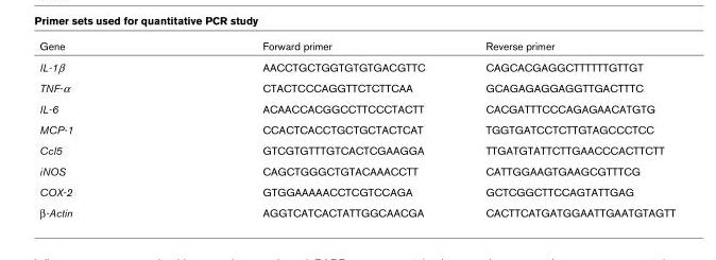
<table><thead><tr><td>Gene</td><td>Forward primer</td><td>Reverse primer</td></tr></thead><tbody><tr><td>IL-1β</td><td>AACCTGCTGGTGTGTGACGTTC</td><td>CAGCACGAGGCTTTTTTGTTGT</td></tr><tr><td>TNF-α</td><td>CTACTCCCAGGTTCTCTTCAA</td><td>GCAGAGAGGAGGTTGACTTTC</td></tr><tr><td>IL-6</td><td>ACAACCACGGCCTTCCCTACTT</td><td>CACGATTTCCCAGAGAACATGTG</td></tr><tr><td>MCP-1</td><td>CCACTCACCTGCTGCTACTCAT</td><td>TGGTGATCCTCTTGTAGCCCTCC</td></tr><tr><td>Ccl5</td><td>GTCGTGTTTGTCACTCGAAGGA</td><td>TTGATGTATTCTTGAACCCACTTCTT</td></tr><tr><td>iNOS</td><td>CAGCTGGGCTGTACAAACCTT</td><td>CATTGGAAGTGAAGCGTTTCG</td></tr><tr><td>COX-2</td><td>GTGGAAAAACCTCGTCCAGA</td><td>GCTCGGCTTCCAGTATTGAG</td></tr><tr><td>β-Actin</td><td>AGGTCATCACTATTGGCAACGA</td><td>CACTTCATGATGGAATTGAATGTAGTT</td></tr></tbody></table>